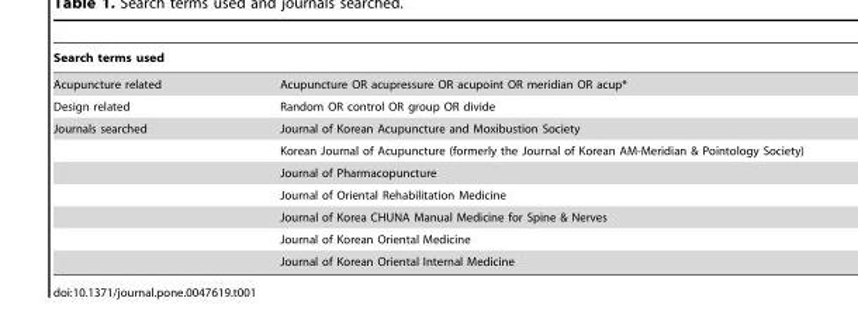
<table><thead><tr><td>Search terms used</td><td></td></tr></thead><tbody><tr><td>Acupuncture related</td><td>Acupuncture OR acupressure OR acupoint OR meridian OR acup*</td></tr><tr><td>Design related</td><td>Random OR control OR group OR divide</td></tr><tr><td rowspan="7">Journals searched</td><td>Journal of Korean Acupuncture and Moxibustion Society</td></tr><tr><td>Korean Journal of Acupuncture (formerly the Journal of Korean AM-Meridian &amp; Pointology Society)</td></tr><tr><td>Journal of Pharmacopuncture</td></tr><tr><td>Journal of Oriental Rehabilitation Medicine</td></tr><tr><td>Journal of Korea CHUNA Manual Medicine for Spine &amp; Nerves</td></tr><tr><td>Journal of Korean Oriental Medicine</td></tr><tr><td>Journal of Korean Oriental Internal Medicine</td></tr></tbody></table>